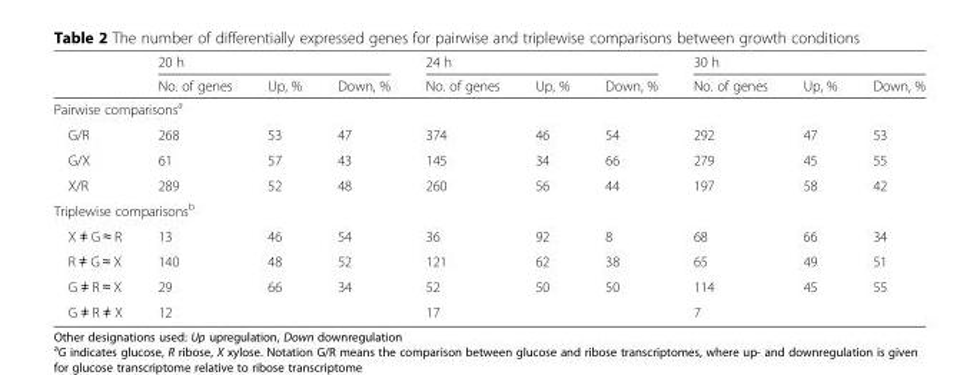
<table><thead><tr><td rowspan="2"></td><td colspan="3">20 h</td><td colspan="3">24 h</td><td colspan="3">30 h</td></tr><tr><td>No. of genes</td><td>Up, %</td><td>Down, %</td><td>No. of genes</td><td>Up, %</td><td>Down, %</td><td>No. of genes</td><td>Up, %</td><td>Down, %</td></tr></thead><tbody><tr><td colspan="10">Pairwise comparisons<sup>a</sup></td></tr><tr><td>G/R</td><td>268</td><td>53</td><td>47</td><td>374</td><td>46</td><td>54</td><td>292</td><td>47</td><td>53</td></tr><tr><td>G/X</td><td>61</td><td>57</td><td>43</td><td>145</td><td>34</td><td>66</td><td>279</td><td>45</td><td>55</td></tr><tr><td>X/R</td><td>289</td><td>52</td><td>48</td><td>260</td><td>56</td><td>44</td><td>197</td><td>58</td><td>42</td></tr><tr><td colspan="10">Triplewise comparisons<sup>b</sup></td></tr><tr><td>X ≠ G ≈ R</td><td>13</td><td>46</td><td>54</td><td>36</td><td>92</td><td>8</td><td>68</td><td>66</td><td>34</td></tr><tr><td>R ≠ G ≈ X</td><td>140</td><td>48</td><td>52</td><td>121</td><td>62</td><td>38</td><td>65</td><td>49</td><td>51</td></tr><tr><td>G ≠ R ≈ X</td><td>29</td><td>66</td><td>34</td><td>52</td><td>50</td><td>50</td><td>114</td><td>45</td><td>55</td></tr><tr><td>G ≠ R ≠ X</td><td>12</td><td></td><td></td><td>17</td><td></td><td></td><td>7</td><td></td><td></td></tr></tbody></table>